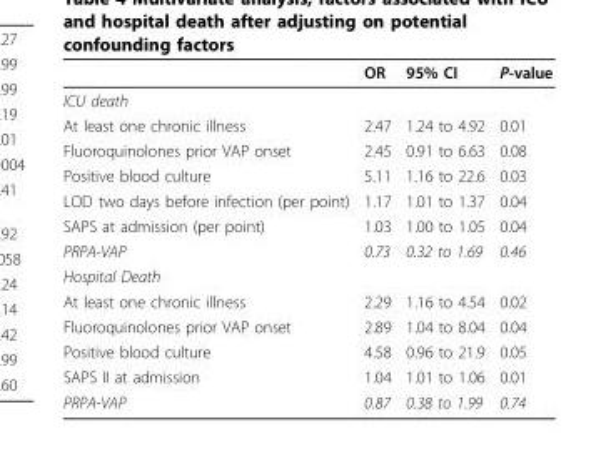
<table><thead><tr><td></td><td>OR</td><td>95% CI</td><td>P-value</td></tr></thead><tbody><tr><td colspan="4">ICU death</td></tr><tr><td>At least one chronic illness</td><td>2.47</td><td>1.24 to 4.92</td><td>0.01</td></tr><tr><td>Fluoroquinolones prior VAP onset</td><td>2.45</td><td>0.91 to 6.63</td><td>0.08</td></tr><tr><td>Positive blood culture</td><td>5.11</td><td>1.16 to 22.6</td><td>0.03</td></tr><tr><td>LOD two days before infection (per point)</td><td>1.17</td><td>1.01 to 1.37</td><td>0.04</td></tr><tr><td>SAPS at admission (per point)</td><td>1.03</td><td>1.00 to 1.05</td><td>0.04</td></tr><tr><td>PRPA-VAP</td><td>0.73</td><td>0.32 to 1.69</td><td>0.46</td></tr><tr><td colspan="4">Hospital Death</td></tr><tr><td>At least one chronic illness</td><td>2.29</td><td>1.16 to 4.54</td><td>0.02</td></tr><tr><td>Fluoroquinolones prior VAP onset</td><td>2.89</td><td>1.04 to 8.04</td><td>0.04</td></tr><tr><td>Positive blood culture</td><td>4.58</td><td>0.96 to 21.9</td><td>0.05</td></tr><tr><td>SAPS II at admission</td><td>1.04</td><td>1.01 to 1.06</td><td>0.01</td></tr><tr><td>PRPA-VAP</td><td>0.87</td><td>0.38 to 1.99</td><td>0.74</td></tr></tbody></table>